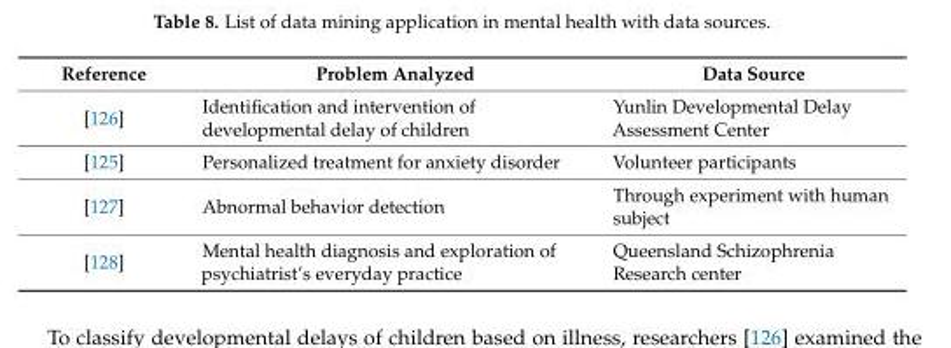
<table><thead><tr><td>Reference</td><td>Problem Analyzed</td><td>Data Source</td></tr></thead><tbody><tr><td>[126]</td><td>Identification and intervention of developmental delay of children</td><td>Yunlin Developmental Delay Assessment Center</td></tr><tr><td>[125]</td><td>Personalized treatment for anxiety disorder</td><td>Volunteer participants</td></tr><tr><td>[127]</td><td>Abnormal behavior detection</td><td>Through experiment with human subject</td></tr><tr><td>[128]</td><td>Mental health diagnosis and exploration of psychiatrist’s everyday practice</td><td>Queensland Schizophrenia Research center</td></tr></tbody></table>